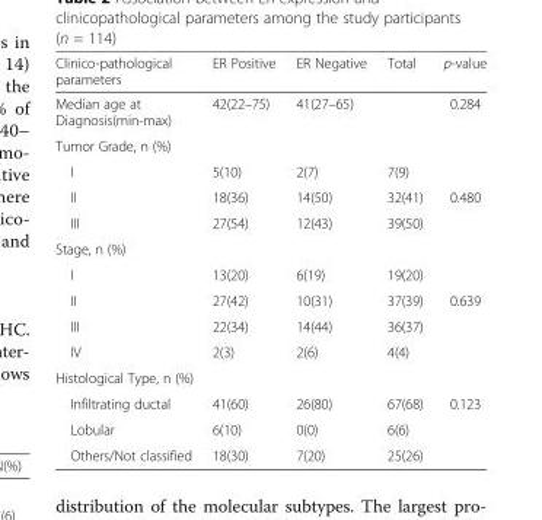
<table><thead><tr><td>Clinico-pathological parameters</td><td>ER Positive</td><td>ER Negative</td><td>Total</td><td>p-value</td></tr></thead><tbody><tr><td>Median age at Diagnosis(min-max)</td><td>42(22–75)</td><td>41(27–65)</td><td></td><td>0.284</td></tr><tr><td colspan="5">Tumor Grade, n (%)</td></tr><tr><td>I</td><td>5(10)</td><td>2(7)</td><td>7(9)</td><td></td></tr><tr><td>II</td><td>18(36)</td><td>14(50)</td><td>32(41)</td><td>0.480</td></tr><tr><td>III</td><td>27(54)</td><td>12(43)</td><td>39(50)</td><td></td></tr><tr><td colspan="5">Stage, n (%)</td></tr><tr><td>I</td><td>13(20)</td><td>6(19)</td><td>19(20)</td><td></td></tr><tr><td>II</td><td>27(42)</td><td>10(31)</td><td>37(39)</td><td>0.639</td></tr><tr><td>III</td><td>22(34)</td><td>14(44)</td><td>36(37)</td><td></td></tr><tr><td>IV</td><td>2(3)</td><td>2(6)</td><td>4(4)</td><td></td></tr><tr><td colspan="5">Histological Type, n (%)</td></tr><tr><td>Infiltrating ductal</td><td>41(60)</td><td>26(80)</td><td>67(68)</td><td rowspan="3">0.123</td></tr><tr><td>Lobular</td><td>6(10)</td><td>0(0)</td><td>6(6)</td></tr><tr><td>Others/Not classified</td><td>18(30)</td><td>7(20)</td><td>25(26)</td></tr></tbody></table>